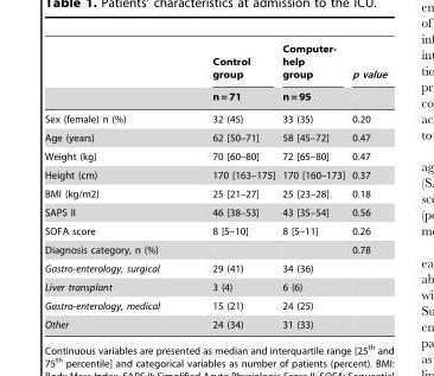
<table><thead><tr><td rowspan="2"></td><td rowspan="2">Control group n = 71</td><td rowspan="2">Computer- help group n = 95</td><td rowspan="2">p value</td></tr><tr></tr></thead><tbody><tr><td>Sex (female) n (%)</td><td>32 (45)</td><td>33 (35)</td><td>0.20</td></tr><tr><td>Age (years)</td><td>62 [50–71]</td><td>58 [45–72]</td><td>0.47</td></tr><tr><td>Weight (kg)</td><td>70 [60–80]</td><td>72 [65–80]</td><td>0.47</td></tr><tr><td>Height (cm)</td><td>170 [163–175]</td><td>170 [160–173]</td><td>0.37</td></tr><tr><td>BMI (kg/m2)</td><td>25 [21–27]</td><td>25 [23–28]</td><td>0.18</td></tr><tr><td>SAPS II</td><td>46 [38–53]</td><td>43 [35–54]</td><td>0.56</td></tr><tr><td>SOFA score</td><td>8 [5–10]</td><td>8 [5–11]</td><td>0.26</td></tr><tr><td>Diagnosis category, n (%)</td><td></td><td></td><td>0.78</td></tr><tr><td>Gastro-enterology, surgical</td><td>29 (41)</td><td>34 (36)</td><td></td></tr><tr><td>Liver transplant</td><td>3 (4)</td><td>6 (6)</td><td></td></tr><tr><td>Gastro-enterology, medical</td><td>15 (21)</td><td>24 (25)</td><td></td></tr><tr><td>Other</td><td>24 (34)</td><td>31 (33)</td><td></td></tr></tbody></table>